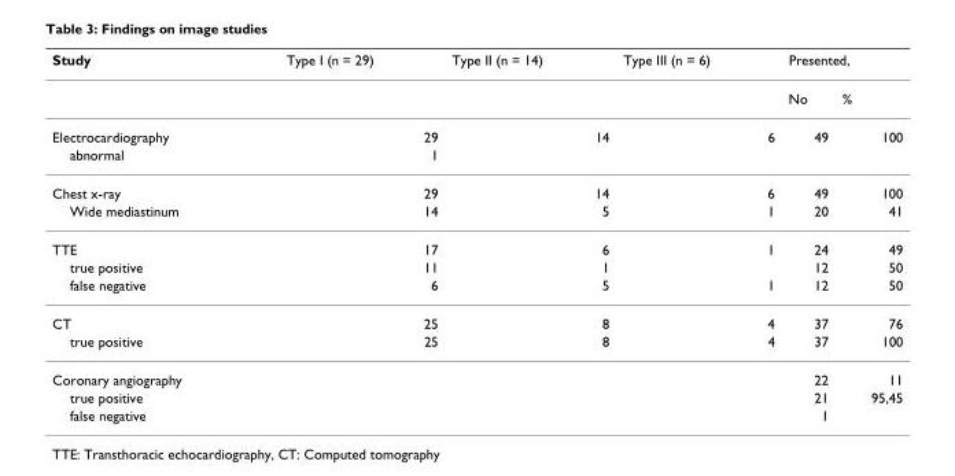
<table><thead><tr><td rowspan="2">Study</td><td rowspan="2">Type I (n = 29)</td><td rowspan="2">Type II (n = 14)</td><td rowspan="2">Type III (n = 6)</td><td colspan="2">Presented,</td></tr><tr><td>No</td><td>%</td></tr></thead><tbody><tr><td>Electrocardiography</td><td>29</td><td>14</td><td>6</td><td>49</td><td>100</td></tr><tr><td>abnormal</td><td>1</td><td></td><td></td><td></td><td></td></tr><tr><td>Chest x-ray</td><td>29</td><td>14</td><td>6</td><td>49</td><td>100</td></tr><tr><td>Wide mediastinum</td><td>14</td><td>5</td><td>1</td><td>20</td><td>41</td></tr><tr><td>TTE</td><td>17</td><td>6</td><td>1</td><td>24</td><td>49</td></tr><tr><td>true positive</td><td>11</td><td>1</td><td></td><td>12</td><td>50</td></tr><tr><td>false negative</td><td>6</td><td>5</td><td>1</td><td>12</td><td>50</td></tr><tr><td>CT</td><td>25</td><td>8</td><td>4</td><td>37</td><td>76</td></tr><tr><td>true positive</td><td>25</td><td>8</td><td>4</td><td>37</td><td>100</td></tr><tr><td>Coronary angiography</td><td></td><td></td><td></td><td>22</td><td>11</td></tr><tr><td>true positive</td><td></td><td></td><td></td><td>21</td><td>95,45</td></tr><tr><td>false negative</td><td></td><td></td><td></td><td>1</td><td></td></tr></tbody></table>